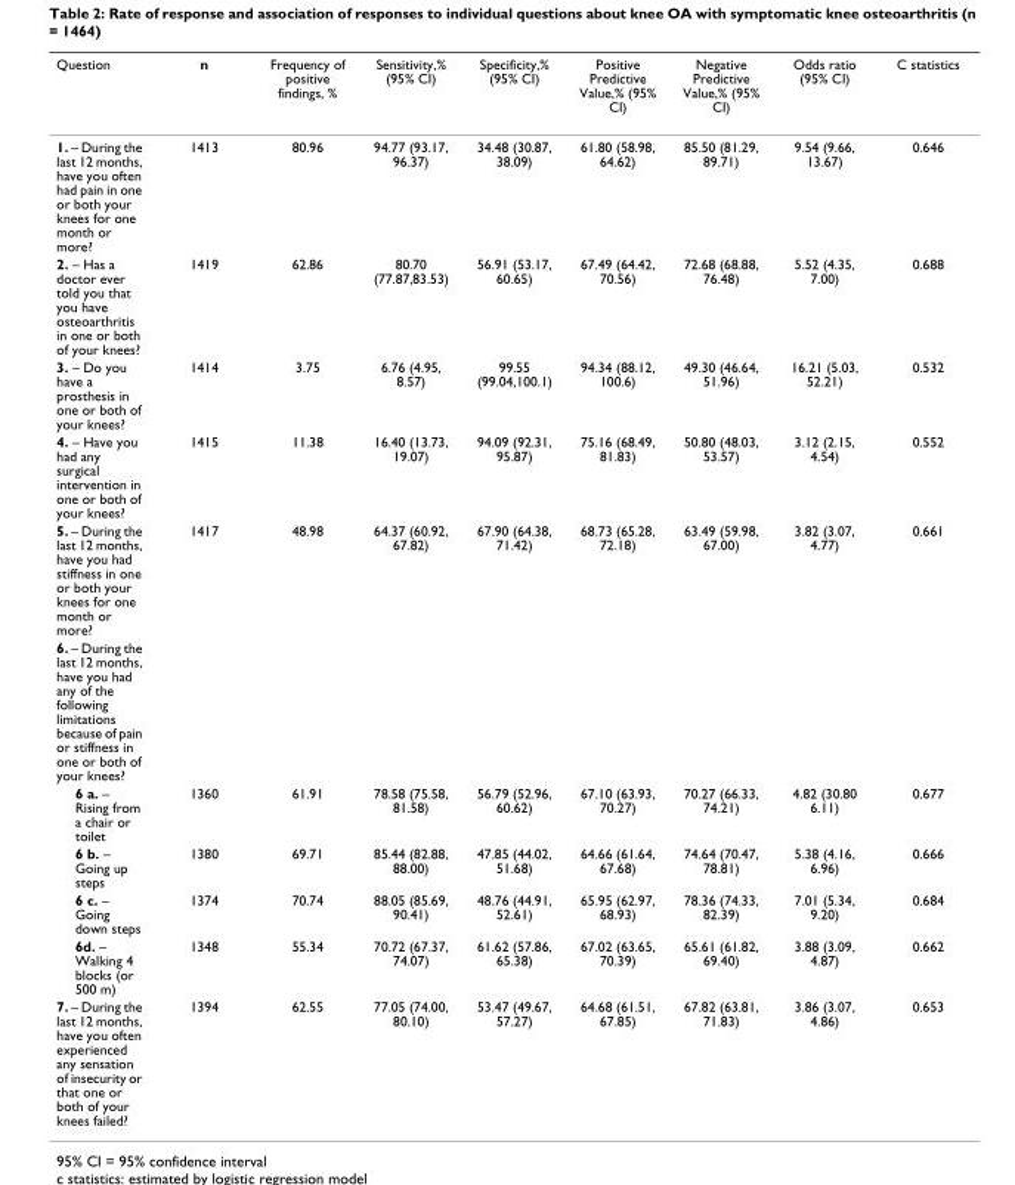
<table><thead><tr><td>Question</td><td>n</td><td>Frequency of positive findings, %</td><td>Sensitivity,% (95% CI)</td><td>Specificity,% (95% CI)</td><td>Positive Predictive Value,% (95% CI)</td><td>Negative Predictive Value,% (95% CI)</td><td>Odds ratio (95% CI)</td><td>C statistics</td></tr></thead><tbody><tr><td>1. – During the last 12 months, have you often had pain in one or both your knees for one month or more?</td><td>1413</td><td>80.96</td><td>94.77 (93.17, 96.37)</td><td>34.48 (30.87, 38.09)</td><td>61.80 (58.98, 64.62)</td><td>85.50 (81.29, 89.71)</td><td>9.54 (9.66, 13.67)</td><td>0.646</td></tr><tr><td>2. – Has a doctor ever told you that you have osteoarthritis in one or both of your knees?</td><td>1419</td><td>62.86</td><td>80.70 (77.87,83.53)</td><td>56.91 (53.17, 60.65)</td><td>67.49 (64.42, 70.56)</td><td>72.68 (68.88, 76.48)</td><td>5.52 (4.35, 7.00)</td><td>0.688</td></tr><tr><td>3. – Do you have a prosthesis in one or both of your knees?</td><td>1414</td><td>3.75</td><td>6.76 (4.95, 8.57)</td><td>99.55 (99.04,100.1)</td><td>94.34 (88.12, 100.6)</td><td>49.30 (46.64, 51.96)</td><td>16.21 (5.03, 52.21)</td><td>0.532</td></tr><tr><td>4. – Have you had any surgical intervention in one or both of your knees?</td><td>1415</td><td>11.38</td><td>16.40 (13.73, 19.07)</td><td>94.09 (92.31, 95.87)</td><td>75.16 (68.49, 81.83)</td><td>50.80 (48.03, 53.57)</td><td>3.12 (2.15, 4.54)</td><td>0.552</td></tr><tr><td>5. – During the last 12 months, have you had stiffness in one or both your knees for one month or more?</td><td>1417</td><td>48.98</td><td>64.37 (60.92, 67.82)</td><td>67.90 (64.38, 71.42)</td><td>68.73 (65.28, 72.18)</td><td>63.49 (59.98, 67.00)</td><td>3.82 (3.07, 4.77)</td><td>0.661</td></tr><tr><td colspan="9">6. – During the last 12 months, have you had any of the following limitations because of pain or stiffness in one or both of your knees?</td></tr><tr><td>6 a. – Rising from a chair or toilet</td><td>1360</td><td>61.91</td><td>78.58 (75.58, 81.58)</td><td>56.79 (52.96, 60.62)</td><td>67.10 (63.93, 70.27)</td><td>70.27 (66.33, 74.21)</td><td>4.82 (30.80 6.11)</td><td>0.677</td></tr><tr><td>6 b. – Going up steps</td><td>1380</td><td>69.71</td><td>85.44 (82.88, 88.00)</td><td>47.85 (44.02, 51.68)</td><td>64.66 (61.64, 67.68)</td><td>74.64 (70.47, 78.81)</td><td>5.38 (4.16, 6.96)</td><td>0.666</td></tr><tr><td>6 c. – Going down steps</td><td>1374</td><td>70.74</td><td>88.05 (85.69, 90.41)</td><td>48.76 (44.91, 52.61)</td><td>65.95 (62.97, 68.93)</td><td>78.36 (74.33, 82.39)</td><td>7.01 (5.34, 9.20)</td><td>0.684</td></tr><tr><td>6d. – Walking 4 blocks (or 500 m)</td><td>1348</td><td>55.34</td><td>70.72 (67.37, 74.07)</td><td>61.62 (57.86, 65.38)</td><td>67.02 (63.65, 70.39)</td><td>65.61 (61.82, 69.40)</td><td>3.88 (3.09, 4.87)</td><td>0.662</td></tr><tr><td>7. – During the last 12 months, have you often experienced any sensation of insecurity or that one or both of your knees failed?</td><td>1394</td><td>62.55</td><td>77.05 (74.00, 80.10)</td><td>53.47 (49.67, 57.27)</td><td>64.68 (61.51, 67.85)</td><td>67.82 (63.81, 71.83)</td><td>3.86 (3.07, 4.86)</td><td>0.653</td></tr></tbody></table>